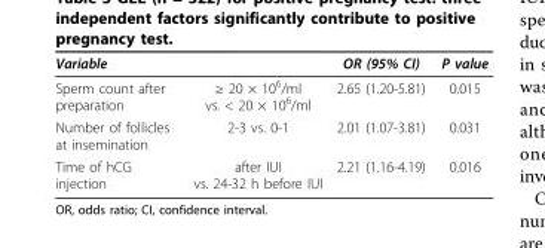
<table><thead><tr><td>Variable</td><td></td><td>OR (95% CI)</td><td>P value</td></tr></thead><tbody><tr><td>Sperm count after preparation</td><td>≥ 20 × 10<sup>6</sup>/ml vs. &lt; 20 × 10<sup>6</sup>/ml</td><td>2.65 (1.20-5.81)</td><td>0.015</td></tr><tr><td>Number of follicles at insemination</td><td>2-3 vs. 0-1</td><td>2.01 (1.07-3.81)</td><td>0.031</td></tr><tr><td>Time of hCG injection</td><td>after IUI vs. 24-32 h before IUI</td><td>2.21 (1.16-4.19)</td><td>0.016</td></tr></tbody></table>